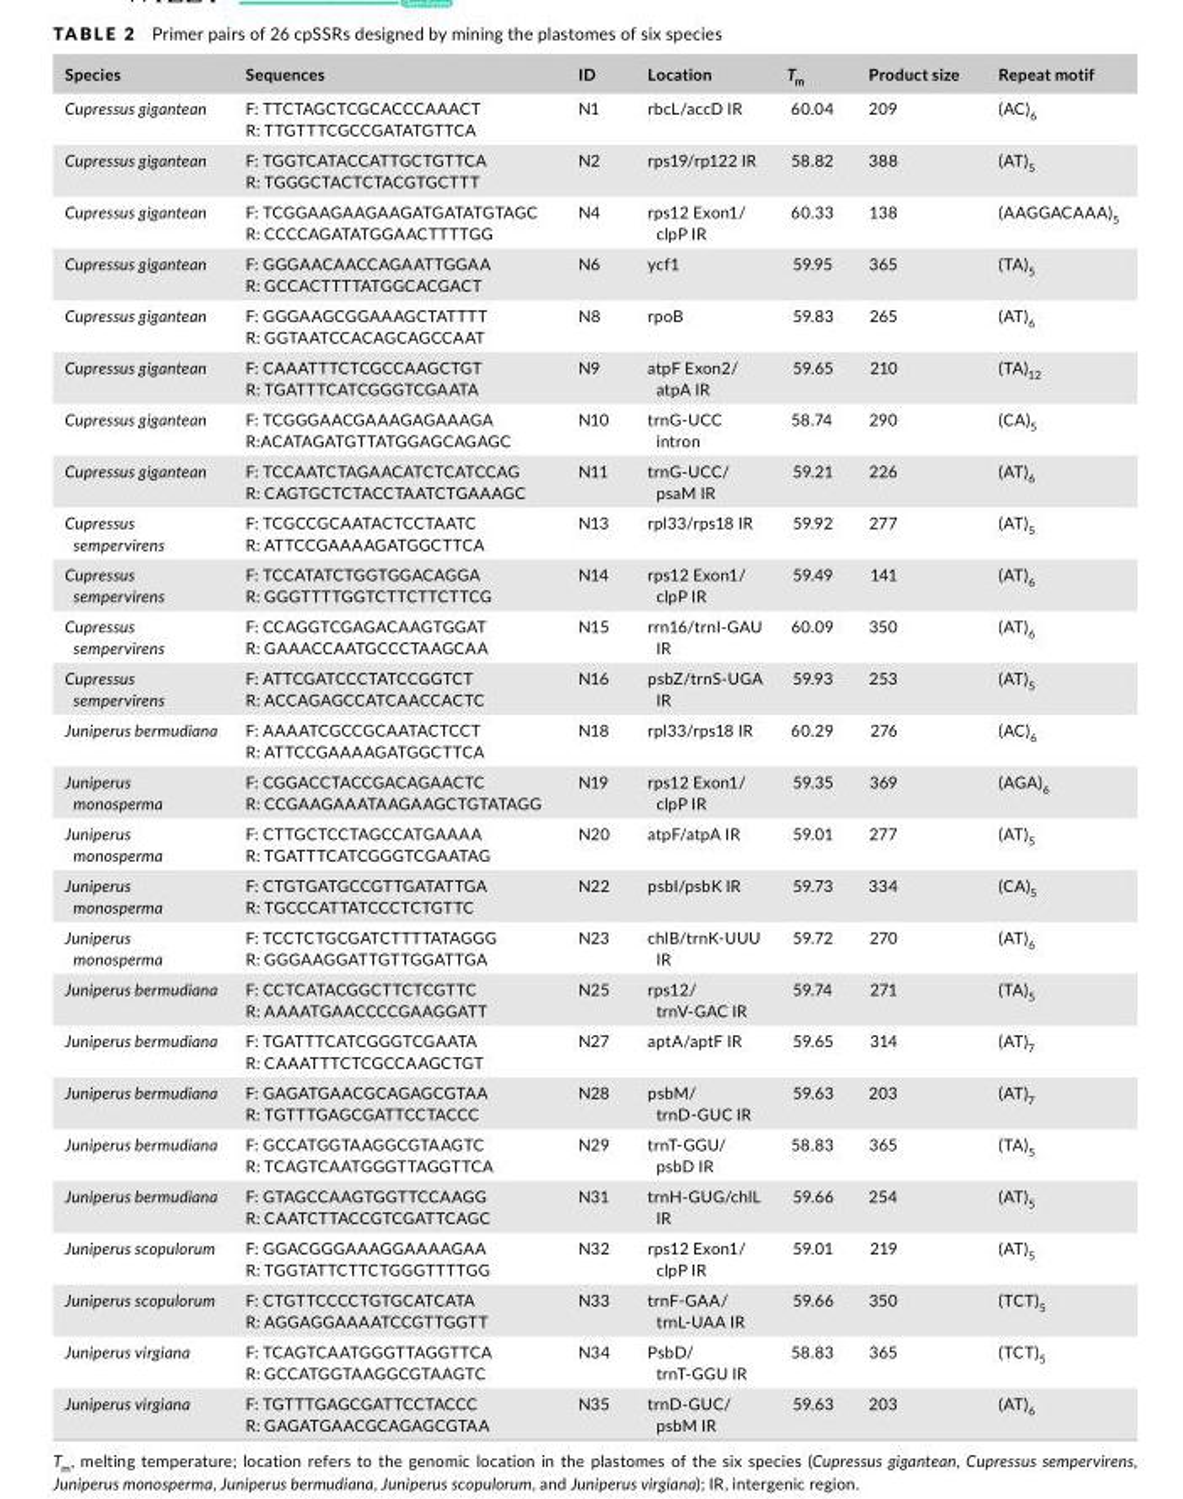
<table><thead><tr><td>Species</td><td>Sequences</td><td>ID</td><td>Location</td><td>T<sub>m</sub></td><td>Product size</td><td>Repeat motif</td></tr></thead><tbody><tr><td>Cupressus gigantean</td><td>F: TTCTAGCTCGCACCCAAACT R: TTGTTTCGCCGATATGTTCA</td><td>N1</td><td>rbcL/accD IR</td><td>60.04</td><td>209</td><td>(AC)<sub>6</sub></td></tr><tr><td>Cupressus gigantean</td><td>F: TGGTCATACCATTGCTGTTCA R: TGGGCTACTCTACGTGCTTT</td><td>N2</td><td>rps19/rp122 IR</td><td>58.82</td><td>388</td><td>(AT)<sub>5</sub></td></tr><tr><td>Cupressus gigantean</td><td>F: TCGGAAGAAGAAGATGATATGTAGC R: CCCCAGATATGGAACTTTTGG</td><td>N4</td><td>rps12 Exon1/ clpP IR</td><td>60.33</td><td>138</td><td>(AAGGACAAA)<sub>5</sub></td></tr><tr><td>Cupressus gigantean</td><td>F: GGGAACAACCAGAATTGGAA R: GCCACTTTTATGGCACGACT</td><td>N6</td><td>ycf1</td><td>59.95</td><td>365</td><td>(TA)<sub>5</sub></td></tr><tr><td>Cupressus gigantean</td><td>F: GGGAAGCGGAAAGCTATTTT R: GGTAATCCACAGCAGCCAAT</td><td>N8</td><td>rpoB</td><td>59.83</td><td>265</td><td>(AT)<sub>6</sub></td></tr><tr><td>Cupressus gigantean</td><td>F: CAAATTTCTCGCCAAGCTGT R: TGATTTCATCGGGTCGAATA</td><td>N9</td><td>atpF Exon2/ atpA IR</td><td>59.65</td><td>210</td><td>(TA)<sub>12</sub></td></tr><tr><td>Cupressus gigantean</td><td>F: TCGGGAACGAAAGAGAAAGA R:ACATAGATGTTATGGAGCAGAGC</td><td>N10</td><td>trnG- UCC intron</td><td>58.74</td><td>290</td><td>(CA)<sub>5</sub></td></tr><tr><td>Cupressus gigantean</td><td>F: TCCAATCTAGAACATCTCATCCAG R: CAGTGCTCTACCTAATCTGAAAGC</td><td>N11</td><td>trnG- UCC/ psaM IR</td><td>59.21</td><td>226</td><td>(AT)<sub>6</sub></td></tr><tr><td>Cupressus sempervirens</td><td>F: TCGCCGCAATACTCCTAATC R: ATTCCGAAAAGATGGCTTCA</td><td>N13</td><td>rpl33/rps18 IR</td><td>59.92</td><td>277</td><td>(AT)<sub>5</sub></td></tr><tr><td>Cupressus sempervirens</td><td>F: TCCATATCTGGTGGACAGGA R: GGGTTTTGGTCTTCTTCTTCG</td><td>N14</td><td>rps12 Exon1/ clpP IR</td><td>59.49</td><td>141</td><td>(AT)<sub>6</sub></td></tr><tr><td>Cupressus sempervirens</td><td>F: CCAGGTCGAGACAAGTGGAT R: GAAACCAATGCCCTAAGCAA</td><td>N15</td><td>rrn16/trnI- GAU IR</td><td>60.09</td><td>350</td><td>(AT)<sub>6</sub></td></tr><tr><td>Cupressus sempervirens</td><td>F: ATTCGATCCCTATCCGGTCT R: ACCAGAGCCATCAACCACTC</td><td>N16</td><td>psbZ/trnS- UGA IR</td><td>59.93</td><td>253</td><td>(AT)<sub>5</sub></td></tr><tr><td>Juniperus bermudiana</td><td>F: AAAATCGCCGCAATACTCCT R: ATTCCGAAAAGATGGCTTCA</td><td>N18</td><td>rpl33/rps18 IR</td><td>60.29</td><td>276</td><td>(AC)<sub>6</sub></td></tr><tr><td>Juniperus monosperma</td><td>F: CGGACCTACCGACAGAACTC R: CCGAAGAAATAAGAAGCTGTATAGG</td><td>N19</td><td>rps12 Exon1/ clpP IR</td><td>59.35</td><td>369</td><td>(AGA)<sub>6</sub></td></tr><tr><td>Juniperus monosperma</td><td>F: CTTGCTCCTAGCCATGAAAA R: TGATTTCATCGGGTCGAATAG</td><td>N20</td><td>atpF/atpA IR</td><td>59.01</td><td>277</td><td>(AT)<sub>5</sub></td></tr><tr><td>Juniperus monosperma</td><td>F: CTGTGATGCCGTTGATATTGA R: TGCCCATTATCCCTCTGTTC</td><td>N22</td><td>psbI/psbK IR</td><td>59.73</td><td>334</td><td>(CA)<sub>5</sub></td></tr><tr><td>Juniperus monosperma</td><td>F: TCCTCTGCGATCTTTTATAGGG R: GGGAAGGATTGTTGGATTGA</td><td>N23</td><td>chlB/trnK- UUU IR</td><td>59.72</td><td>270</td><td>(AT)<sub>6</sub></td></tr><tr><td>Juniperus bermudiana</td><td>F: CCTCATACGGCTTCTCGTTC R: AAAATGAACCCCGAAGGATT</td><td>N25</td><td>rps12/ trnV- GAC IR</td><td>59.74</td><td>271</td><td>(TA)<sub>5</sub></td></tr><tr><td>Juniperus bermudiana</td><td>F: TGATTTCATCGGGTCGAATA R: CAAATTTCTCGCCAAGCTGT</td><td>N27</td><td>aptA/aptF IR</td><td>59.65</td><td>314</td><td>(AT)<sub>7</sub></td></tr><tr><td>Juniperus bermudiana</td><td>F: GAGATGAACGCAGAGCGTAA R: TGTTTGAGCGATTCCTACCC</td><td>N28</td><td>psbM/ trnD- GUC IR</td><td>59.63</td><td>203</td><td>(AT)<sub>7</sub></td></tr><tr><td>Juniperus bermudiana</td><td>F: GCCATGGTAAGGCGTAAGTC R: TCAGTCAATGGGTTAGGTTCA</td><td>N29</td><td>trnT- GGU/ psbD IR</td><td>58.83</td><td>365</td><td>(TA)<sub>5</sub></td></tr><tr><td>Juniperus bermudiana</td><td>F: GTAGCCAAGTGGTTCCAAGG R: CAATCTTACCGTCGATTCAGC</td><td>N31</td><td>trnH- GUG/chlL IR</td><td>59.66</td><td>254</td><td>(AT)<sub>5</sub></td></tr><tr><td>Juniperus scopulorum</td><td>F: GGACGGGAAAGGAAAAGAA R: TGGTATTCTTCTGGGTTTTGG</td><td>N32</td><td>rps12 Exon1/ clpP IR</td><td>59.01</td><td>219</td><td>(AT)<sub>5</sub></td></tr><tr><td>Juniperus scopulorum</td><td>F: CTGTTCCCCTGTGCATCATA R: AGGAGGAAAATCCGTTGGTT</td><td>N33</td><td>trnF- GAA/ trnL- UAA IR</td><td>59.66</td><td>350</td><td>(TCT)<sub>5</sub></td></tr><tr><td>Juniperus virgiana</td><td>F: TCAGTCAATGGGTTAGGTTCA R: GCCATGGTAAGGCGTAAGTC</td><td>N34</td><td>PsbD/ trnT- GGU IR</td><td>58.83</td><td>365</td><td>(TCT)<sub>5</sub></td></tr><tr><td>Juniperus virgiana</td><td>F: TGTTTGAGCGATTCCTACCC R: GAGATGAACGCAGAGCGTAA</td><td>N35</td><td>trnD- GUC/ psbM IR</td><td>59.63</td><td>203</td><td>(AT)<sub>6</sub></td></tr></tbody></table>